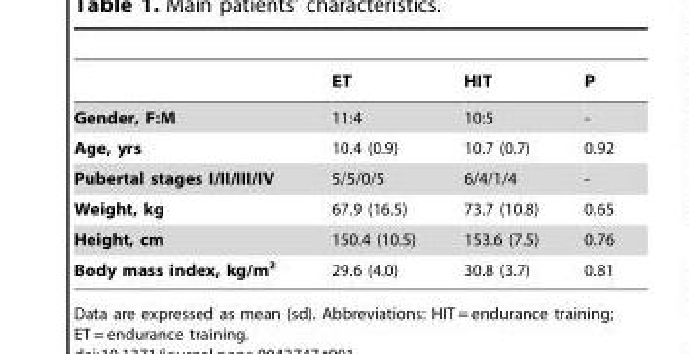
<table><thead><tr><td></td><td>ET</td><td>HIT</td><td>P</td></tr></thead><tbody><tr><td>Gender, F:M</td><td>11:4</td><td>10:5</td><td>-</td></tr><tr><td>Age, yrs</td><td>10.4 (0.9)</td><td>10.7 (0.7)</td><td>0.92</td></tr><tr><td>Pubertal stages I/II/III/IV</td><td>5/5/0/5</td><td>6/4/1/4</td><td>-</td></tr><tr><td>Weight, kg</td><td>67.9 (16.5)</td><td>73.7 (10.8)</td><td>0.65</td></tr><tr><td>Height, cm</td><td>150.4 (10.5)</td><td>153.6 (7.5)</td><td>0.76</td></tr><tr><td>Body mass index, kg/m<sup>2</sup></td><td>29.6 (4.0)</td><td>30.8 (3.7)</td><td>0.81</td></tr></tbody></table>